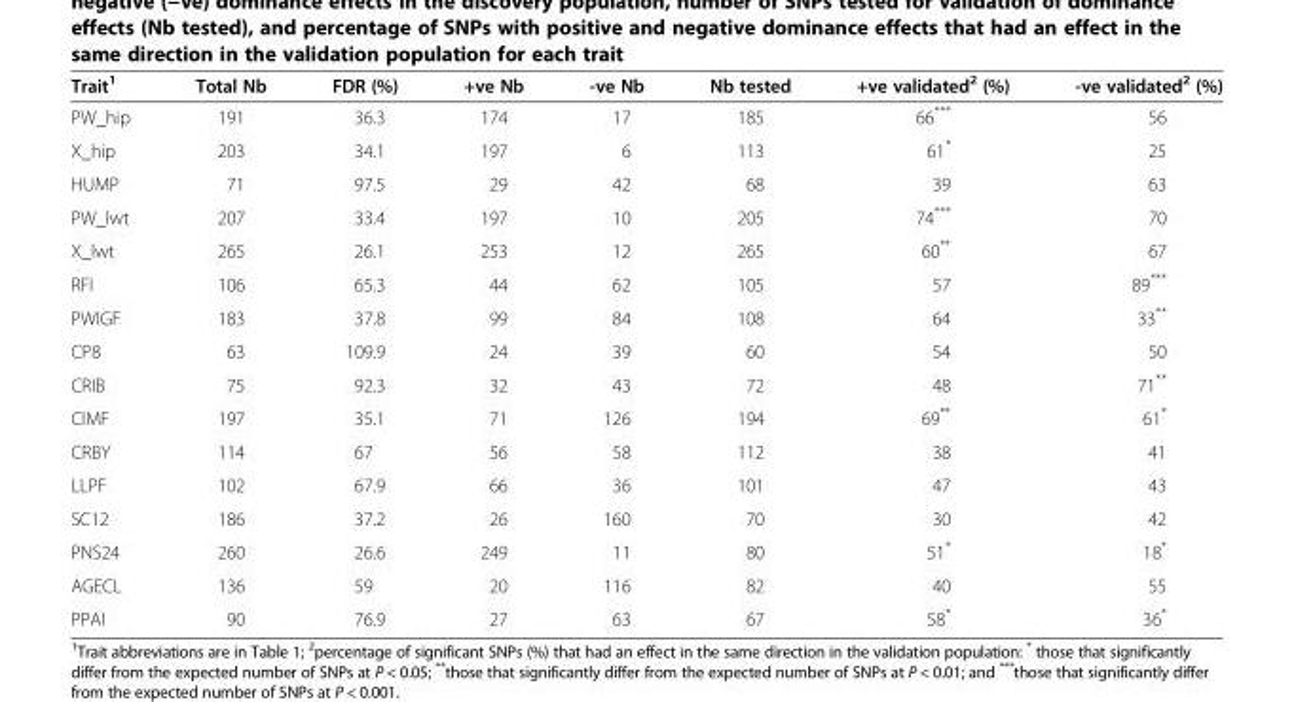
<table><thead><tr><td>Trait<sup>1</sup></td><td>Total Nb</td><td>FDR (%)</td><td>+ve Nb</td><td>-ve Nb</td><td>Nb tested</td><td>+ve validated<sup>2</sup> (%)</td><td>-ve validated<sup>2</sup> (%)</td></tr></thead><tbody><tr><td>PW_hip</td><td>191</td><td>36.3</td><td>174</td><td>17</td><td>185</td><td>66***</td><td>56</td></tr><tr><td>X_hip</td><td>203</td><td>34.1</td><td>197</td><td>6</td><td>113</td><td>61*</td><td>25</td></tr><tr><td>HUMP</td><td>71</td><td>97.5</td><td>29</td><td>42</td><td>68</td><td>39</td><td>63</td></tr><tr><td>PW_lwt</td><td>207</td><td>33.4</td><td>197</td><td>10</td><td>205</td><td>74***</td><td>70</td></tr><tr><td>X_lwt</td><td>265</td><td>26.1</td><td>253</td><td>12</td><td>265</td><td>60**</td><td>67</td></tr><tr><td>RFI</td><td>106</td><td>65.3</td><td>44</td><td>62</td><td>105</td><td>57</td><td>89***</td></tr><tr><td>PWIGF</td><td>183</td><td>37.8</td><td>99</td><td>84</td><td>108</td><td>64</td><td>33**</td></tr><tr><td>CP8</td><td>63</td><td>109.9</td><td>24</td><td>39</td><td>60</td><td>54</td><td>50</td></tr><tr><td>CRIB</td><td>75</td><td>92.3</td><td>32</td><td>43</td><td>72</td><td>48</td><td>71**</td></tr><tr><td>CIMF</td><td>197</td><td>35.1</td><td>71</td><td>126</td><td>194</td><td>69**</td><td>61*</td></tr><tr><td>CRBY</td><td>114</td><td>67</td><td>56</td><td>58</td><td>112</td><td>38</td><td>41</td></tr><tr><td>LLPF</td><td>102</td><td>67.9</td><td>66</td><td>36</td><td>101</td><td>47</td><td>43</td></tr><tr><td>SC12</td><td>186</td><td>37.2</td><td>26</td><td>160</td><td>70</td><td>30</td><td>42</td></tr><tr><td>PNS24</td><td>260</td><td>26.6</td><td>249</td><td>11</td><td>80</td><td>51*</td><td>18*</td></tr><tr><td>AGECL</td><td>136</td><td>59</td><td>20</td><td>116</td><td>82</td><td>40</td><td>55</td></tr><tr><td>PPAI</td><td>90</td><td>76.9</td><td>27</td><td>63</td><td>67</td><td>58*</td><td>36*</td></tr></tbody></table>